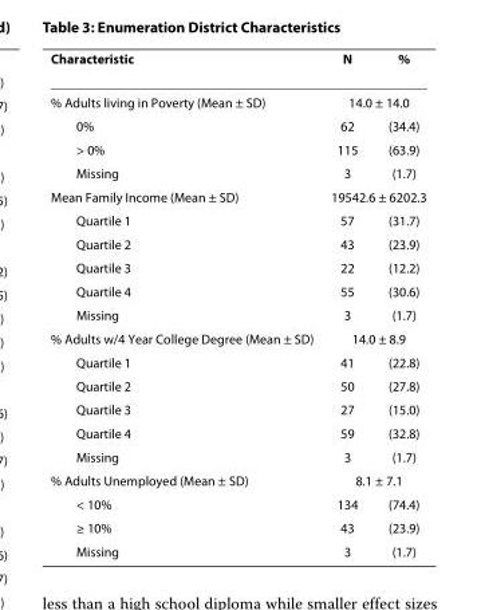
<table><thead><tr><td>Characteristic</td><td>N</td><td>%</td></tr></thead><tbody><tr><td>% Adults living in Poverty (Mean ± SD)</td><td colspan="2">14.0 ± 14.0</td></tr><tr><td>0%</td><td>62</td><td>(34.4)</td></tr><tr><td>&gt; 0%</td><td>115</td><td>(63.9)</td></tr><tr><td>Missing</td><td>3</td><td>(1.7)</td></tr><tr><td>Mean Family Income (Mean ± SD)</td><td colspan="2">19542.6 ± 6202.3</td></tr><tr><td>Quartile 1</td><td>57</td><td>(31.7)</td></tr><tr><td>Quartile 2</td><td>43</td><td>(23.9)</td></tr><tr><td>Quartile 3</td><td>22</td><td>(12.2)</td></tr><tr><td>Quartile 4</td><td>55</td><td>(30.6)</td></tr><tr><td>Missing</td><td>3</td><td>(1.7)</td></tr><tr><td>% Adults w/4 Year College Degree (Mean ± SD)</td><td colspan="2">14.0 ± 8.9</td></tr><tr><td>Quartile 1</td><td>41</td><td>(22.8)</td></tr><tr><td>Quartile 2</td><td>50</td><td>(27.8)</td></tr><tr><td>Quartile 3</td><td>27</td><td>(15.0)</td></tr><tr><td>Quartile 4</td><td>59</td><td>(32.8)</td></tr><tr><td>Missing</td><td>3</td><td>(1.7)</td></tr><tr><td>% Adults Unemployed (Mean ± SD)</td><td colspan="2">8.1 ± 7.1</td></tr><tr><td>&lt; 10%</td><td>134</td><td>(74.4)</td></tr><tr><td>≥ 10%</td><td>43</td><td>(23.9)</td></tr><tr><td>Missing</td><td>3</td><td>(1.7)</td></tr></tbody></table>